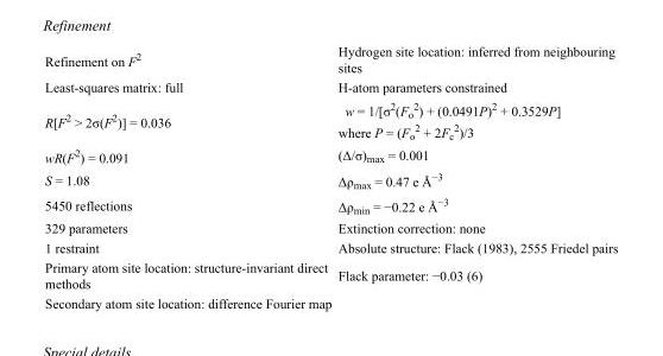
<table><tbody><tr><td>Refinement on F<sup>2</sup></td><td>Hydrogen site location: inferred from neighbouring sites</td></tr><tr><td>Least-squares matrix: full</td><td>H-atom parameters constrained</td></tr><tr><td>R[F<sup>2</sup> &gt; 2σ(F<sup>2</sup>)] = 0.036</td><td>w = 1/[σ<sup>2</sup>(F<sub>o</sub> <sup>2</sup>) + (0.0491P)<sup>2</sup> + 0.3529P] where P = (F<sub>o</sub> <sup>2</sup> + 2F<sub>c</sub> <sup>2</sup>)/3</td></tr><tr><td>wR(F<sup>2</sup>) = 0.091</td><td>(Δ/σ)<sub>max</sub> = 0.001</td></tr><tr><td>S = 1.08</td><td>Δρ<sub>max</sub> = 0.47 e Å<sup>−3</sup></td></tr><tr><td>5450 reflections</td><td>Δρ<sub>min</sub> = −0.22 e Å<sup>−3</sup></td></tr><tr><td>329 parameters</td><td>Extinction correction: none</td></tr><tr><td>1 restraint</td><td>Absolute structure: Flack (1983), 2555 Friedel pairs</td></tr><tr><td>Primary atom site location: structure-invariant direct methods</td><td>Flack parameter: −0.03 (6)</td></tr><tr><td>Secondary atom site location: difference Fourier map</td><td></td></tr></tbody></table>